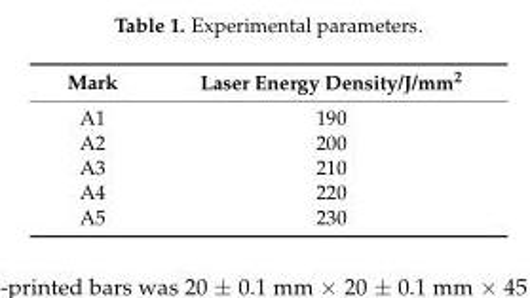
<table><thead><tr><td>Mark</td><td>Laser Energy Density/J/mm<sup>2</sup></td></tr></thead><tbody><tr><td>A1</td><td>190</td></tr><tr><td>A2</td><td>200</td></tr><tr><td>A3</td><td>210</td></tr><tr><td>A4</td><td>220</td></tr><tr><td>A5</td><td>230</td></tr></tbody></table>